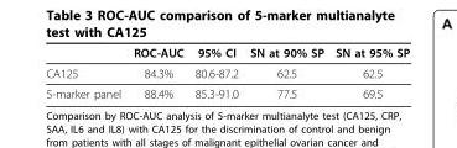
<table><thead><tr><td></td><td>ROC-AUC</td><td>95% CI</td><td>SN at 90% SP</td><td>SN at 95% SP</td></tr></thead><tbody><tr><td>CA125</td><td>84.3%</td><td>80.6-87.2</td><td>62.5</td><td>62.5</td></tr><tr><td>5-marker panel</td><td>88.4%</td><td>85.3-91.0</td><td>77.5</td><td>69.5</td></tr></tbody></table>